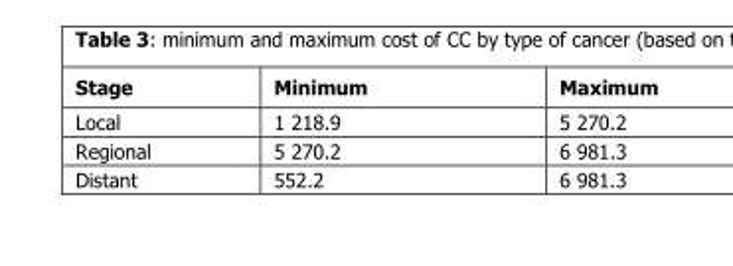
<table><thead><tr><td>Stage</td><td>Minimum</td><td>Maximum</td></tr></thead><tbody><tr><td>Local</td><td>1 218.9</td><td>5 270.2</td></tr><tr><td>Regional</td><td>5 270.2</td><td>6 981.3</td></tr><tr><td>Distant</td><td>552.2</td><td>6 981.3</td></tr></tbody></table>